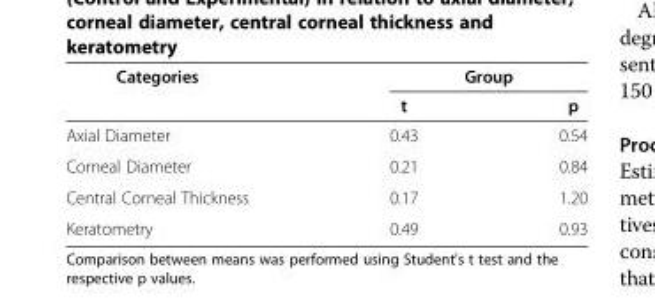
<table><thead><tr><td rowspan="2">Categories</td><td colspan="2">Group</td></tr><tr><td>t</td><td>p</td></tr></thead><tbody><tr><td>Axial Diameter</td><td>0.43</td><td>0.54</td></tr><tr><td>Corneal Diameter</td><td>0.21</td><td>0.84</td></tr><tr><td>Central Corneal Thickness</td><td>0.17</td><td>1.20</td></tr><tr><td>Keratometry</td><td>0.49</td><td>0.93</td></tr></tbody></table>